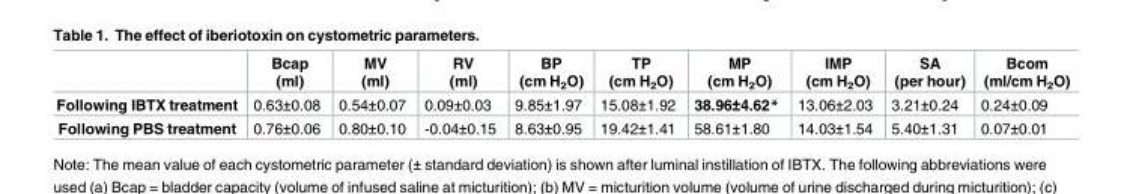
<table><thead><tr><td></td><td>Bcap (ml)</td><td>MV (ml)</td><td>RV (ml)</td><td>BP (cm H<sub>2</sub>O)</td><td>TP (cm H<sub>2</sub>O)</td><td>MP (cm H<sub>2</sub>O)</td><td>IMP (cm H<sub>2</sub>O)</td><td>SA (per hour)</td><td>Bcom (ml/cm H<sub>2</sub>O)</td></tr></thead><tbody><tr><td>Following IBTX treatment</td><td>0.63±0.08</td><td>0.54±0.07</td><td>0.09±0.03</td><td>9.85±1.97</td><td>15.08±1.92</td><td>38.96±4.62*</td><td>13.06±2.03</td><td>3.21±0.24</td><td>0.24±0.09</td></tr><tr><td>Following PBS treatment</td><td>0.76±0.06</td><td>0.80±0.10</td><td>-0.04±0.15</td><td>8.63±0.95</td><td>19.42±1.41</td><td>58.61±1.80</td><td>14.03±1.54</td><td>5.40±1.31</td><td>0.07±0.01</td></tr></tbody></table>